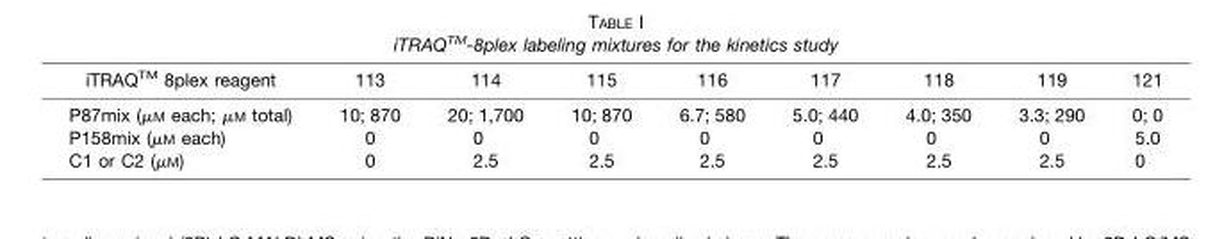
<table><thead><tr><td>iTRAQ<sup>TM</sup> 8plex reagent</td><td>113</td><td>114</td><td>115</td><td>116</td><td>117</td><td>118</td><td>119</td><td>121</td></tr></thead><tbody><tr><td>P87mix (μM each; μM total)</td><td>10; 870</td><td>20; 1,700</td><td>10; 870</td><td>6.7; 580</td><td>5.0; 440</td><td>4.0; 350</td><td>3.3; 290</td><td>0; 0</td></tr><tr><td>P158mix (μM each)</td><td>0</td><td>0</td><td>0</td><td>0</td><td>0</td><td>0</td><td>0</td><td>5.0</td></tr><tr><td>C1 or C2 (μM)</td><td>0</td><td>2.5</td><td>2.5</td><td>2.5</td><td>2.5</td><td>2.5</td><td>2.5</td><td>0</td></tr></tbody></table>